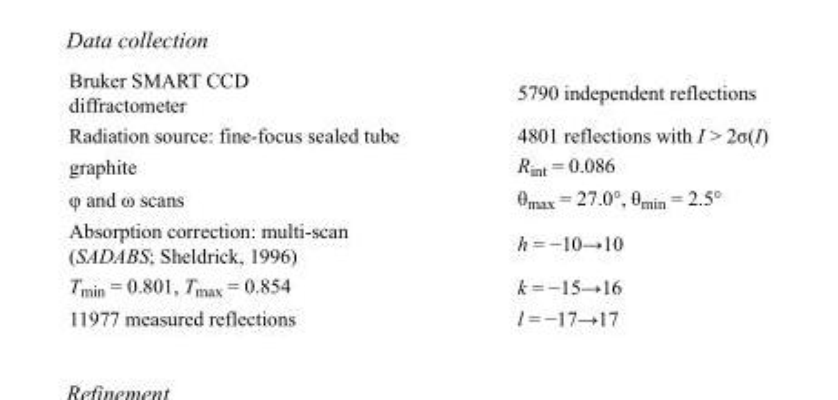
<table><tbody><tr><td>Bruker SMART CCD diffractometer</td><td>5790 independent reflections</td></tr><tr><td>Radiation source: fine-focus sealed tube</td><td>4801 reflections with I &gt; 2σ(I)</td></tr><tr><td>graphite</td><td>R<sub>int</sub> = 0.086</td></tr><tr><td>φ and ω scans</td><td>θ<sub>max</sub> = 27.0°, θ<sub>min</sub> = 2.5°</td></tr><tr><td>Absorption correction: multi-scan (SADABS; Sheldrick, 1996)</td><td>h = −10→10</td></tr><tr><td>T<sub>min</sub> = 0.801, T<sub>max</sub> = 0.854</td><td>k = −15→16</td></tr><tr><td>11977 measured reflections</td><td>l = −17→17</td></tr></tbody></table>